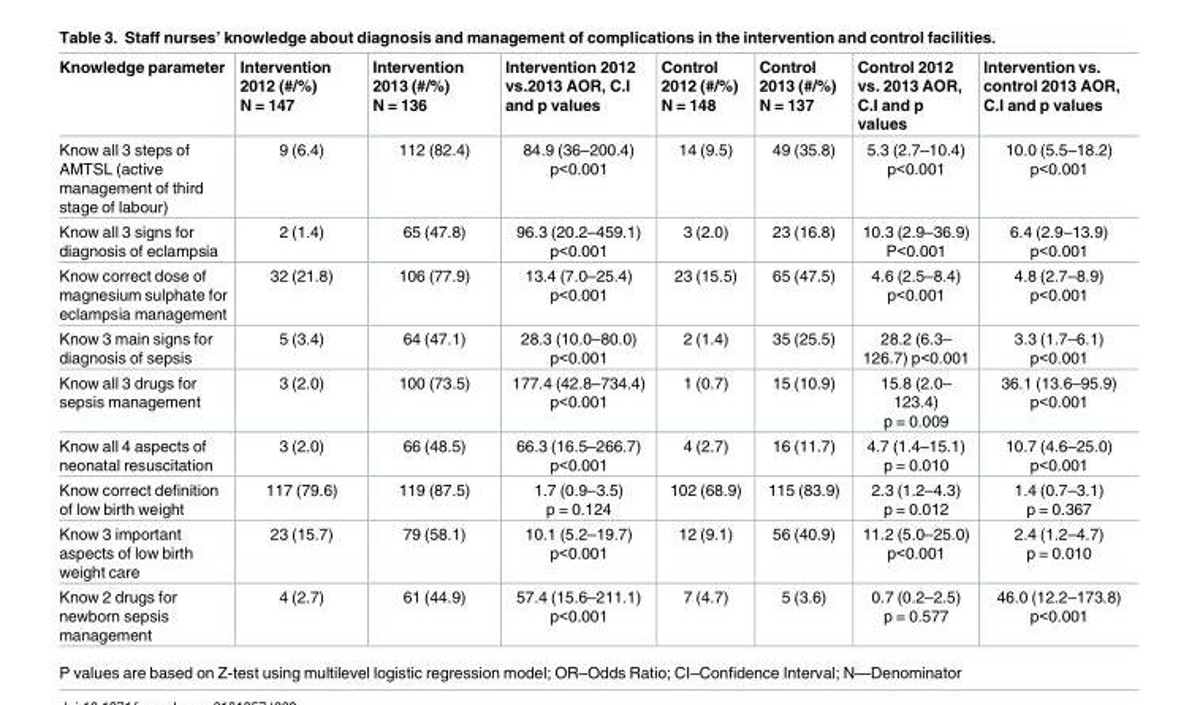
<table><thead><tr><td>Knowledge parameter</td><td>Intervention 2012 (#/%) N = 147</td><td>Intervention 2013 (#/%) N = 136</td><td>Intervention 2012 vs.2013 AOR, C.I and p values</td><td>Control 2012 (#/%) N = 148</td><td>Control 2013 (#/%) N = 137</td><td>Control 2012 vs. 2013 AOR, C.I and p values</td><td>Intervention vs. control 2013 AOR, C.I and p values</td></tr></thead><tbody><tr><td>Know all 3 steps of AMTSL (active management of third stage of labour)</td><td>9 (6.4)</td><td>112 (82.4)</td><td>84.9 (36–200.4) p&lt;0.001</td><td>14 (9.5)</td><td>49 (35.8)</td><td>5.3 (2.7–10.4) p&lt;0.001</td><td>10.0 (5.5–18.2) p&lt;0.001</td></tr><tr><td>Know all 3 signs for diagnosis of eclampsia</td><td>2 (1.4)</td><td>65 (47.8)</td><td>96.3 (20.2–459.1) p&lt;0.001</td><td>3 (2.0)</td><td>23 (16.8)</td><td>10.3 (2.9–36.9) P&lt;0.001</td><td>6.4 (2.9–13.9) p&lt;0.001</td></tr><tr><td>Know correct dose of magnesium sulphate for eclampsia management</td><td>32 (21.8)</td><td>106 (77.9)</td><td>13.4 (7.0–25.4) p&lt;0.001</td><td>23 (15.5)</td><td>65 (47.5)</td><td>4.6 (2.5–8.4) p&lt;0.001</td><td>4.8 (2.7–8.9) p&lt;0.001</td></tr><tr><td>Know 3 main signs for diagnosis of sepsis</td><td>5 (3.4)</td><td>64 (47.1)</td><td>28.3 (10.0–80.0) p&lt;0.001</td><td>2 (1.4)</td><td>35 (25.5)</td><td>28.2 (6.3– 126.7) p&lt;0.001</td><td>3.3 (1.7–6.1) p&lt;0.001</td></tr><tr><td>Know all 3 drugs for sepsis management</td><td>3 (2.0)</td><td>100 (73.5)</td><td>177.4 (42.8–734.4) p&lt;0.001</td><td>1 (0.7)</td><td>15 (10.9)</td><td>15.8 (2.0– 123.4) p = 0.009</td><td>36.1 (13.6–95.9) p&lt;0.001</td></tr><tr><td>Know all 4 aspects of neonatal resuscitation</td><td>3 (2.0)</td><td>66 (48.5)</td><td>66.3 (16.5–266.7) p&lt;0.001</td><td>4 (2.7)</td><td>16 (11.7)</td><td>4.7 (1.4–15.1) p = 0.010</td><td>10.7 (4.6–25.0) p&lt;0.001</td></tr><tr><td>Know correct definition of low birth weight</td><td>117 (79.6)</td><td>119 (87.5)</td><td>1.7 (0.9–3.5) p = 0.124</td><td>102 (68.9)</td><td>115 (83.9)</td><td>2.3 (1.2–4.3) p = 0.012</td><td>1.4 (0.7–3.1) p = 0.367</td></tr><tr><td>Know 3 important aspects of low birth weight care</td><td>23 (15.7)</td><td>79 (58.1)</td><td>10.1 (5.2–19.7) p&lt;0.001</td><td>12 (9.1)</td><td>56 (40.9)</td><td>11.2 (5.0–25.0) p&lt;0.001</td><td>2.4 (1.2–4.7) p = 0.010</td></tr><tr><td>Know 2 drugs for newborn sepsis management</td><td>4 (2.7)</td><td>61 (44.9)</td><td>57.4 (15.6–211.1) p&lt;0.001</td><td>7 (4.7)</td><td>5 (3.6)</td><td>0.7 (0.2–2.5) p = 0.577</td><td>46.0 (12.2–173.8) p&lt;0.001</td></tr></tbody></table>